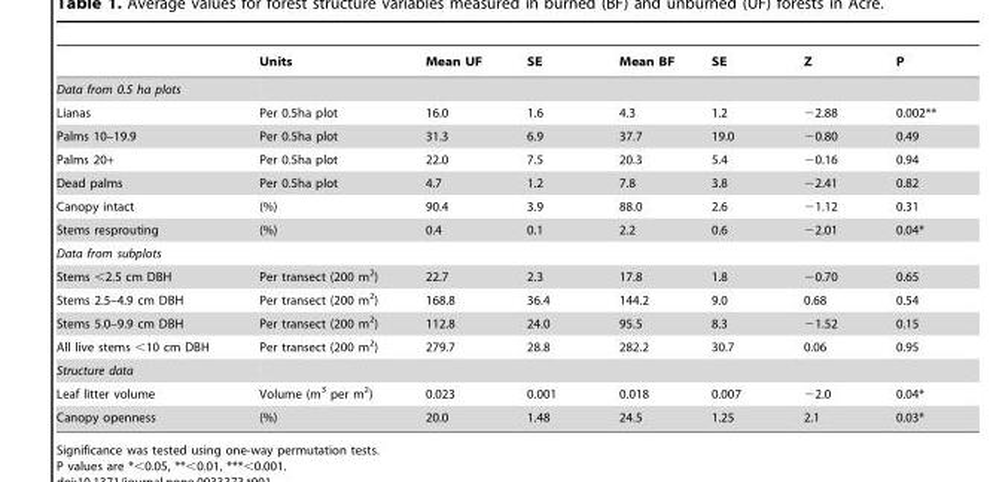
<table><thead><tr><td></td><td>Units</td><td>Mean UF</td><td>SE</td><td>Mean BF</td><td>SE</td><td>Z</td><td>P</td></tr></thead><tbody><tr><td colspan="8">Data from 0.5 ha plots</td></tr><tr><td>Lianas</td><td>Per 0.5ha plot</td><td>16.0</td><td>1.6</td><td>4.3</td><td>1.2</td><td>−2.88</td><td>0.002**</td></tr><tr><td>Palms 10–19.9</td><td>Per 0.5ha plot</td><td>31.3</td><td>6.9</td><td>37.7</td><td>19.0</td><td>−0.80</td><td>0.49</td></tr><tr><td>Palms 20+</td><td>Per 0.5ha plot</td><td>22.0</td><td>7.5</td><td>20.3</td><td>5.4</td><td>−0.16</td><td>0.94</td></tr><tr><td>Dead palms</td><td>Per 0.5ha plot</td><td>4.7</td><td>1.2</td><td>7.8</td><td>3.8</td><td>−2.41</td><td>0.82</td></tr><tr><td>Canopy intact</td><td>(%)</td><td>90.4</td><td>3.9</td><td>88.0</td><td>2.6</td><td>−1.12</td><td>0.31</td></tr><tr><td>Stems resprouting</td><td>(%)</td><td>0.4</td><td>0.1</td><td>2.2</td><td>0.6</td><td>−2.01</td><td>0.04*</td></tr><tr><td colspan="8">Data from subplots</td></tr><tr><td>Stems &lt;2.5 cm DBH</td><td>Per transect (200 m<sup>2</sup>)</td><td>22.7</td><td>2.3</td><td>17.8</td><td>1.8</td><td>−0.70</td><td>0.65</td></tr><tr><td>Stems 2.5–4.9 cm DBH</td><td>Per transect (200 m<sup>2</sup>)</td><td>168.8</td><td>36.4</td><td>144.2</td><td>9.0</td><td>0.68</td><td>0.54</td></tr><tr><td>Stems 5.0–9.9 cm DBH</td><td>Per transect (200 m<sup>2</sup>)</td><td>112.8</td><td>24.0</td><td>95.5</td><td>8.3</td><td>−1.52</td><td>0.15</td></tr><tr><td>All live stems &lt;10 cm DBH</td><td>Per transect (200 m<sup>2</sup>)</td><td>279.7</td><td>28.8</td><td>282.2</td><td>30.7</td><td>0.06</td><td>0.95</td></tr><tr><td colspan="8">Structure data</td></tr><tr><td>Leaf litter volume</td><td>Volume (m<sup>3</sup> per m<sup>2</sup>)</td><td>0.023</td><td>0.001</td><td>0.018</td><td>0.007</td><td>−2.0</td><td>0.04*</td></tr><tr><td>Canopy openness</td><td>(%)</td><td>20.0</td><td>1.48</td><td>24.5</td><td>1.25</td><td>2.1</td><td>0.03*</td></tr></tbody></table>